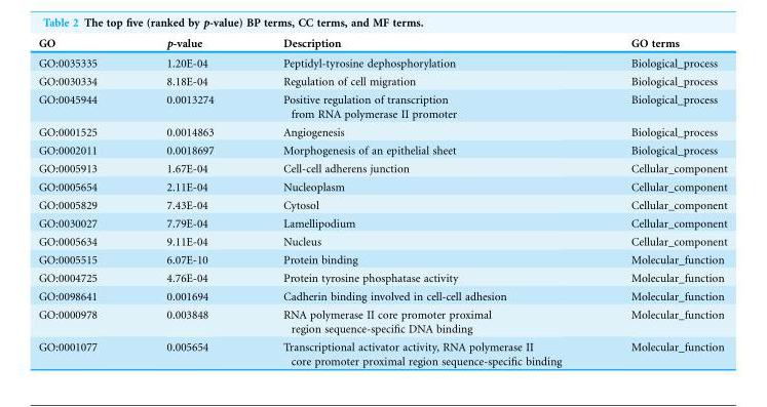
<table><thead><tr><td>GO</td><td>p-value</td><td>Description</td><td>GO terms</td></tr></thead><tbody><tr><td>GO:0035335</td><td>1.20E-04</td><td>Peptidyl-tyrosine dephosphorylation</td><td>Biological_process</td></tr><tr><td>GO:0030334</td><td>8.18E-04</td><td>Regulation of cell migration</td><td>Biological_process</td></tr><tr><td>GO:0045944</td><td>0.0013274</td><td>Positive regulation of transcription from RNA polymerase II promoter</td><td>Biological_process</td></tr><tr><td>GO:0001525</td><td>0.0014863</td><td>Angiogenesis</td><td>Biological_process</td></tr><tr><td>GO:0002011</td><td>0.0018697</td><td>Morphogenesis of an epithelial sheet</td><td>Biological_process</td></tr><tr><td>GO:0005913</td><td>1.67E-04</td><td>Cell-cell adherens junction</td><td>Cellular_component</td></tr><tr><td>GO:0005654</td><td>2.11E-04</td><td>Nucleoplasm</td><td>Cellular_component</td></tr><tr><td>GO:0005829</td><td>7.43E-04</td><td>Cytosol</td><td>Cellular_component</td></tr><tr><td>GO:0030027</td><td>7.79E-04</td><td>Lamellipodium</td><td>Cellular_component</td></tr><tr><td>GO:0005634</td><td>9.11E-04</td><td>Nucleus</td><td>Cellular_component</td></tr><tr><td>GO:0005515</td><td>6.07E-10</td><td>Protein binding</td><td>Molecular_function</td></tr><tr><td>GO:0004725</td><td>4.76E-04</td><td>Protein tyrosine phosphatase activity</td><td>Molecular_function</td></tr><tr><td>GO:0098641</td><td>0.001694</td><td>Cadherin binding involved in cell-cell adhesion</td><td>Molecular_function</td></tr><tr><td>GO:0000978</td><td>0.003848</td><td>RNA polymerase II core promoter proximal region sequence-specific DNA binding</td><td>Molecular_function</td></tr><tr><td>GO:0001077</td><td>0.005654</td><td>Transcriptional activator activity, RNA polymerase II core promoter proximal region sequence-specific binding</td><td>Molecular_function</td></tr></tbody></table>